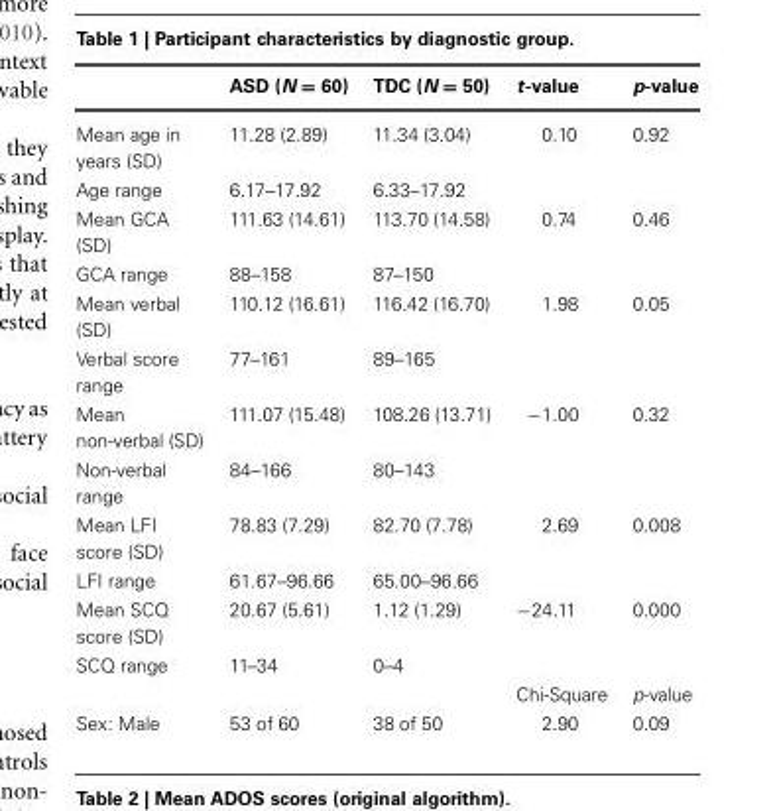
<table><thead><tr><td></td><td>ASD (N = 60)</td><td>TDC (N = 50)</td><td>t-value</td><td>p-value</td></tr></thead><tbody><tr><td>Mean age in years (SD)</td><td>11.28 (2.89)</td><td>11.34 (3.04)</td><td>0.10</td><td>0.92</td></tr><tr><td>Age range</td><td>6.17–17.92</td><td>6.33–17.92</td><td></td><td></td></tr><tr><td>Mean GCA (SD)</td><td>111.63 (14.61)</td><td>113.70 (14.58)</td><td>0.74</td><td>0.46</td></tr><tr><td>GCA range</td><td>88–158</td><td>87–150</td><td></td><td></td></tr><tr><td>Mean verbal (SD)</td><td>110.12 (16.61)</td><td>116.42 (16.70)</td><td>1.98</td><td>0.05</td></tr><tr><td>Verbal score range</td><td>77–161</td><td>89–165</td><td></td><td></td></tr><tr><td>Mean non-verbal (SD)</td><td>111.07 (15.48)</td><td>108.26 (13.71)</td><td>−1.00</td><td>0.32</td></tr><tr><td>Non-verbal range</td><td>84–166</td><td>80–143</td><td></td><td></td></tr><tr><td>Mean LFI score (SD)</td><td>78.83 (7.29)</td><td>82.70 (7.78)</td><td>2.69</td><td>0.008</td></tr><tr><td>LFI range</td><td>61.67–96.66</td><td>65.00–96.66</td><td></td><td></td></tr><tr><td>Mean SCQ score (SD)</td><td>20.67 (5.61)</td><td>1.12 (1.29)</td><td>−24.11</td><td>0.000</td></tr><tr><td rowspan="2">SCQ range</td><td>11–34</td><td>0–4</td><td></td><td></td></tr><tr><td></td><td></td><td>Chi-Square</td><td>p-value</td></tr><tr><td>Sex: Male</td><td>53 of 60</td><td>38 of 50</td><td>2.90</td><td>0.09</td></tr></tbody></table>